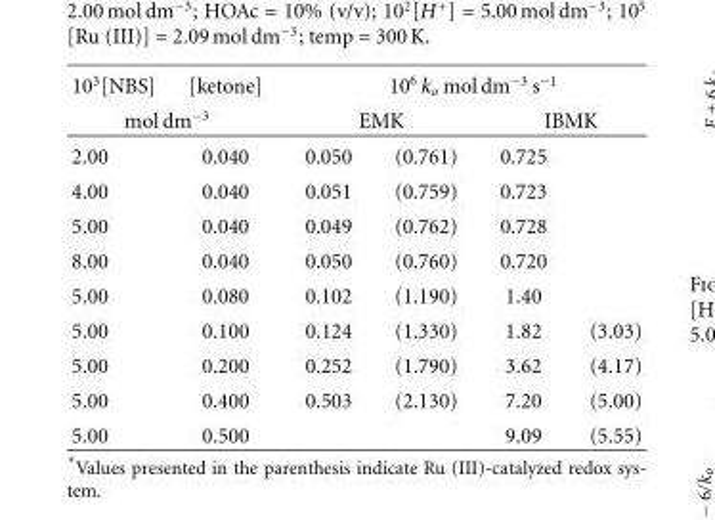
<table><thead><tr><td>10<sup>3</sup>[NBS]</td><td>[ketone]</td><td colspan="4">10<sup>6</sup> k<sub>o</sub> mol dm<sup>−3</sup> s<sup>−1</sup></td></tr><tr><td colspan="2">mol dm<sup>−3</sup></td><td colspan="2">EMK</td><td colspan="2">IBMK</td></tr><tr><td>2.00</td><td>0.040</td><td>0.050</td><td>(0.761)</td><td>0.725</td><td></td></tr></thead><tbody><tr><td>4.00</td><td>0.040</td><td>0.051</td><td>(0.759)</td><td>0.723</td><td></td></tr><tr><td>5.00</td><td>0.040</td><td>0.049</td><td>(0.762)</td><td>0.728</td><td></td></tr><tr><td>8.00</td><td>0.040</td><td>0.050</td><td>(0.760)</td><td>0.720</td><td></td></tr><tr><td>5.00</td><td>0.080</td><td>0.102</td><td>(1.190)</td><td>1.40</td><td></td></tr><tr><td>5.00</td><td>0.100</td><td>0.124</td><td>(1.330)</td><td>1.82</td><td>(3.03)</td></tr><tr><td>5.00</td><td>0.200</td><td>0.252</td><td>(1.790)</td><td>3.62</td><td>(4.17)</td></tr><tr><td>5.00</td><td>0.400</td><td>0.503</td><td>(2.130)</td><td>7.20</td><td>(5.00)</td></tr><tr><td>5.00</td><td>0.500</td><td></td><td></td><td>9.09</td><td>(5.55)</td></tr></tbody></table>